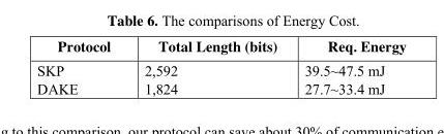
<table><thead><tr><td>Protocol</td><td>Total Length (bits)</td><td>Req. Energy</td></tr></thead><tbody><tr><td>SKP</td><td>2,592</td><td>39.5~47.5 mJ</td></tr><tr><td>DAKE</td><td>1,824</td><td>27.7~33.4 mJ</td></tr></tbody></table>